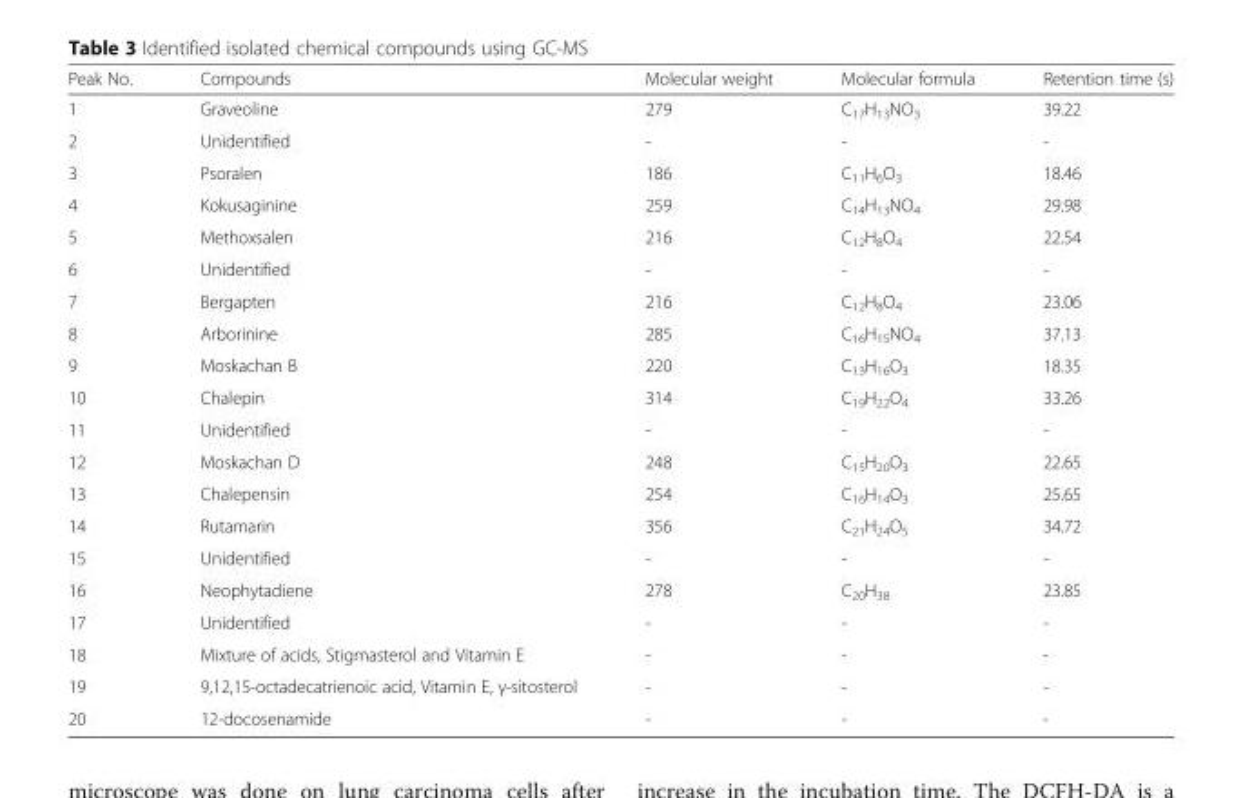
<table><thead><tr><td>Peak No.</td><td>Compounds</td><td>Molecular weight</td><td>Molecular formula</td><td>Retention time (s)</td></tr></thead><tbody><tr><td>1</td><td>Graveoline</td><td>279</td><td>C<sub>17</sub>H<sub>13</sub>NO<sub>3</sub></td><td>39.22</td></tr><tr><td>2</td><td>Unidentified</td><td>-</td><td>-</td><td>-</td></tr><tr><td>3</td><td>Psoralen</td><td>186</td><td>C<sub>11</sub>H<sub>6</sub>O<sub>3</sub></td><td>18.46</td></tr><tr><td>4</td><td>Kokusaginine</td><td>259</td><td>C<sub>14</sub>H<sub>13</sub>NO<sub>4</sub></td><td>29.98</td></tr><tr><td>5</td><td>Methoxsalen</td><td>216</td><td>C<sub>12</sub>H<sub>8</sub>O<sub>4</sub></td><td>22.54</td></tr><tr><td>6</td><td>Unidentified</td><td>-</td><td>-</td><td>-</td></tr><tr><td>7</td><td>Bergapten</td><td>216</td><td>C<sub>12</sub>H<sub>8</sub>O<sub>4</sub></td><td>23.06</td></tr><tr><td>8</td><td>Arborinine</td><td>285</td><td>C<sub>16</sub>H<sub>15</sub>NO<sub>4</sub></td><td>37.13</td></tr><tr><td>9</td><td>Moskachan B</td><td>220</td><td>C<sub>13</sub>H<sub>16</sub>O<sub>3</sub></td><td>18.35</td></tr><tr><td>10</td><td>Chalepin</td><td>314</td><td>C<sub>19</sub>H<sub>22</sub>O<sub>4</sub></td><td>33.26</td></tr><tr><td>11</td><td>Unidentified</td><td>-</td><td>-</td><td>-</td></tr><tr><td>12</td><td>Moskachan D</td><td>248</td><td>C<sub>15</sub>H<sub>20</sub>O<sub>3</sub></td><td>22.65</td></tr><tr><td>13</td><td>Chalepensin</td><td>254</td><td>C<sub>16</sub>H<sub>14</sub>O<sub>3</sub></td><td>25.65</td></tr><tr><td>14</td><td>Rutamarin</td><td>356</td><td>C<sub>21</sub>H<sub>24</sub>O<sub>5</sub></td><td>34.72</td></tr><tr><td>15</td><td>Unidentified</td><td>-</td><td>-</td><td>-</td></tr><tr><td>16</td><td>Neophytadiene</td><td>278</td><td>C<sub>20</sub>H<sub>38</sub></td><td>23.85</td></tr><tr><td>17</td><td>Unidentified</td><td>-</td><td>-</td><td>-</td></tr><tr><td>18</td><td>Mixture of acids, Stigmasterol and Vitamin E</td><td>-</td><td>-</td><td>-</td></tr><tr><td>19</td><td>9,12,15-octadecatrienoic acid, Vitamin E, γ-sitosterol</td><td>-</td><td>-</td><td>-</td></tr><tr><td>20</td><td>12-docosenamide</td><td>-</td><td>-</td><td>-</td></tr></tbody></table>